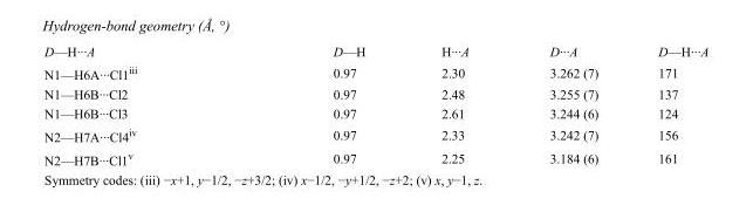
<table><tbody><tr><td>D—H···A</td><td>D—H</td><td>H···A</td><td>D···A</td><td>D—H···A</td></tr><tr><td>N1—H6A···Cl1<sup>iii</sup></td><td>0.97</td><td>2.30</td><td>3.262 (7)</td><td>171</td></tr><tr><td>N1—H6B···Cl2</td><td>0.97</td><td>2.48</td><td>3.255 (7)</td><td>137</td></tr><tr><td>N1—H6B···Cl3</td><td>0.97</td><td>2.61</td><td>3.244 (6)</td><td>124</td></tr><tr><td>N2—H7A···Cl4<sup>iv</sup></td><td>0.97</td><td>2.33</td><td>3.242 (7)</td><td>156</td></tr><tr><td>N2—H7B···Cl1<sup>v</sup></td><td>0.97</td><td>2.25</td><td>3.184 (6)</td><td>161</td></tr></tbody></table>